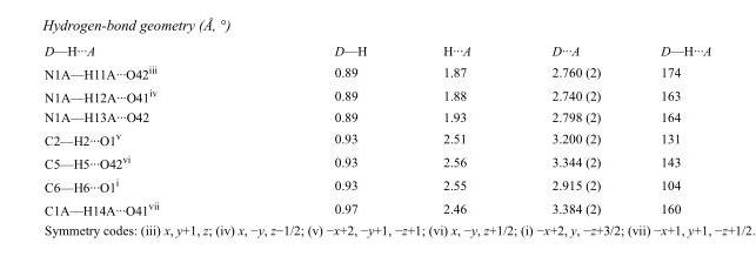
<table><tbody><tr><td>D—H···A</td><td>D—H</td><td>H···A</td><td>D···A</td><td>D—H···A</td></tr><tr><td>N1A—H11A···O42<sup>iii</sup></td><td>0.89</td><td>1.87</td><td>2.760 (2)</td><td>174</td></tr><tr><td>N1A—H12A···O41<sup>iv</sup></td><td>0.89</td><td>1.88</td><td>2.740 (2)</td><td>163</td></tr><tr><td>N1A—H13A···O42</td><td>0.89</td><td>1.93</td><td>2.798 (2)</td><td>164</td></tr><tr><td>C2—H2···O1<sup>v</sup></td><td>0.93</td><td>2.51</td><td>3.200 (2)</td><td>131</td></tr><tr><td>C5—H5···O42<sup>vi</sup></td><td>0.93</td><td>2.56</td><td>3.344 (2)</td><td>143</td></tr><tr><td>C6—H6···O1<sup>i</sup></td><td>0.93</td><td>2.55</td><td>2.915 (2)</td><td>104</td></tr><tr><td>C1A—H14A···O41<sup>vii</sup></td><td>0.97</td><td>2.46</td><td>3.384 (2)</td><td>160</td></tr></tbody></table>